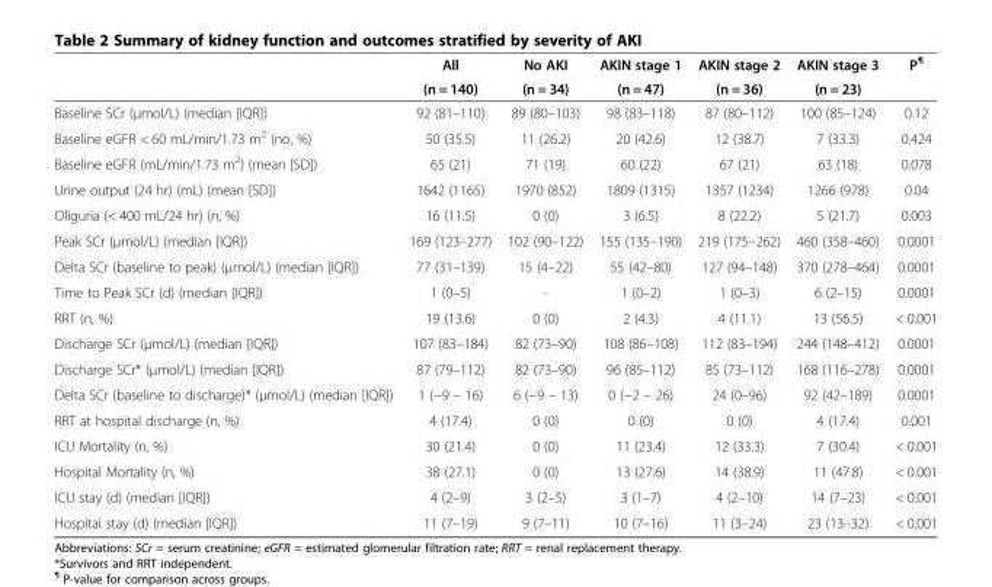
<table><thead><tr><td rowspan="2"></td><td rowspan="2">All (n = 140)</td><td rowspan="2">No AKI (n = 34)</td><td rowspan="2">AKIN stage 1 (n = 47)</td><td rowspan="2">AKIN stage 2 (n = 36)</td><td rowspan="2">AKIN stage 3 (n = 23)</td><td rowspan="2">P<sup>¶</sup></td></tr><tr></tr></thead><tbody><tr><td>Baseline SCr (μmol/L) (median [IQR])</td><td>92 (81–110)</td><td>89 (80–103)</td><td>98 (83–118)</td><td>87 (80–112)</td><td>100 (85–124)</td><td>0.12</td></tr><tr><td>Baseline eGFR &lt; 60 mL/min/1.73 m<sup>2</sup> (no, %)</td><td>50 (35.5)</td><td>11 (26.2)</td><td>20 (42.6)</td><td>12 (38.7)</td><td>7 (33.3)</td><td>0.424</td></tr><tr><td>Baseline eGFR (mL/min/1.73 m<sup>2</sup>) (mean [SD])</td><td>65 (21)</td><td>71 (19)</td><td>60 (22)</td><td>67 (21)</td><td>63 (18)</td><td>0.078</td></tr><tr><td>Urine output (24 hr) (mL) (mean [SD])</td><td>1642 (1165)</td><td>1970 (852)</td><td>1809 (1315)</td><td>1357 (1234)</td><td>1266 (978)</td><td>0.04</td></tr><tr><td>Oliguria (&lt; 400 mL/24 hr) (n, %)</td><td>16 (11.5)</td><td>0 (0)</td><td>3 (6.5)</td><td>8 (22.2)</td><td>5 (21.7)</td><td>0.003</td></tr><tr><td>Peak SCr (μmol/L) (median [IQR])</td><td>169 (123–277)</td><td>102 (90–122)</td><td>155 (135–190)</td><td>219 (175–262)</td><td>460 (358–460)</td><td>0.0001</td></tr><tr><td>Delta SCr (baseline to peak) (μmol/L) (median [IQR])</td><td>77 (31–139)</td><td>15 (4–22)</td><td>55 (42–80)</td><td>127 (94–148)</td><td>370 (278–464)</td><td>0.0001</td></tr><tr><td>Time to Peak SCr (d) (median [IQR])</td><td>1 (0–5)</td><td>-</td><td>1 (0–2)</td><td>1 (0–3)</td><td>6 (2–15)</td><td>0.0001</td></tr><tr><td>RRT (n, %)</td><td>19 (13.6)</td><td>0 (0)</td><td>2 (4.3)</td><td>4 (11.1)</td><td>13 (56.5)</td><td>&lt; 0.001</td></tr><tr><td>Discharge SCr (μmol/L) (median [IQR])</td><td>107 (83–184)</td><td>82 (73–90)</td><td>108 (86–108)</td><td>112 (83–194)</td><td>244 (148–412)</td><td>0.0001</td></tr><tr><td>Discharge SCr* (μmol/L) (median [IQR])</td><td>87 (79–112)</td><td>82 (73–90)</td><td>96 (85–112)</td><td>85 (73–112)</td><td>168 (116–278)</td><td>0.0001</td></tr><tr><td>Delta SCr (baseline to discharge)* (μmol/L) (median [IQR])</td><td>1 (−9 – 16)</td><td>6 (−9 – 13)</td><td>0 (−2 – 26)</td><td>24 (0–96)</td><td>92 (42–189)</td><td>0.0001</td></tr><tr><td>RRT at hospital discharge (n, %)</td><td>4 (17.4)</td><td>0 (0)</td><td>0 (0)</td><td>0 (0)</td><td>4 (17.4)</td><td>0.001</td></tr><tr><td>ICU Mortality (n, %)</td><td>30 (21.4)</td><td>0 (0)</td><td>11 (23.4)</td><td>12 (33.3)</td><td>7 (30.4)</td><td>&lt; 0.001</td></tr><tr><td>Hospital Mortality (n, %)</td><td>38 (27.1)</td><td>0 (0)</td><td>13 (27.6)</td><td>14 (38.9)</td><td>11 (47.8)</td><td>&lt; 0.001</td></tr><tr><td>ICU stay (d) (median [IQR])</td><td>4 (2–9)</td><td>3 (2–5)</td><td>3 (1–7)</td><td>4 (2–10)</td><td>14 (7–23)</td><td>&lt; 0.001</td></tr><tr><td>Hospital stay (d) (median [IQR])</td><td>11 (7–19)</td><td>9 (7–11)</td><td>10 (7–16)</td><td>11 (3–24)</td><td>23 (13–32)</td><td>&lt; 0.001</td></tr></tbody></table>